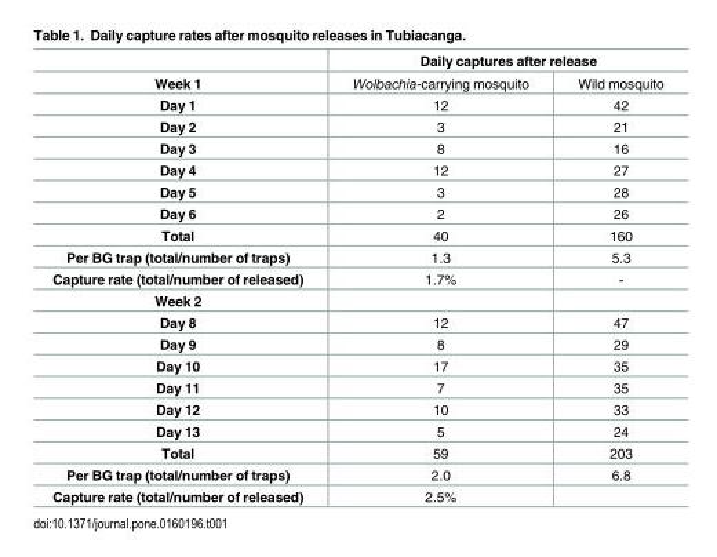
<table><thead><tr><td rowspan="2">Week 1</td><td colspan="2">Daily captures after release</td></tr><tr><td>Wolbachia-carrying mosquito</td><td>Wild mosquito</td></tr></thead><tbody><tr><td>Day 1</td><td>12</td><td>42</td></tr><tr><td>Day 2</td><td>3</td><td>21</td></tr><tr><td>Day 3</td><td>8</td><td>16</td></tr><tr><td>Day 4</td><td>12</td><td>27</td></tr><tr><td>Day 5</td><td>3</td><td>28</td></tr><tr><td>Day 6</td><td>2</td><td>26</td></tr><tr><td>Total</td><td>40</td><td>160</td></tr><tr><td>Per BG trap (total/number of traps)</td><td>1.3</td><td>5.3</td></tr><tr><td>Capture rate (total/number of released)</td><td>1.7%</td><td>-</td></tr><tr><td colspan="3">Week 2</td></tr><tr><td>Day 8</td><td>12</td><td>47</td></tr><tr><td>Day 9</td><td>8</td><td>29</td></tr><tr><td>Day 10</td><td>17</td><td>35</td></tr><tr><td>Day 11</td><td>7</td><td>35</td></tr><tr><td>Day 12</td><td>10</td><td>33</td></tr><tr><td>Day 13</td><td>5</td><td>24</td></tr><tr><td>Total</td><td>59</td><td>203</td></tr><tr><td>Per BG trap (total/number of traps)</td><td>2.0</td><td>6.8</td></tr><tr><td>Capture rate (total/number of released)</td><td>2.5%</td><td></td></tr></tbody></table>